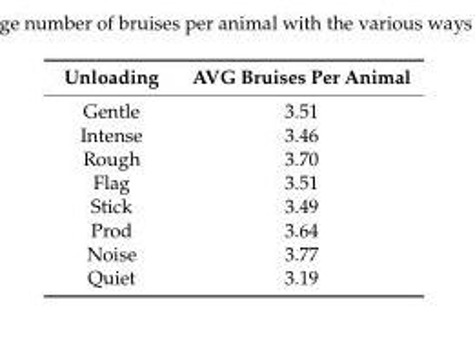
<table><thead><tr><td>Unloading</td><td>AVG Bruises Per Animal</td></tr></thead><tbody><tr><td>Gentle</td><td>3.51</td></tr><tr><td>Intense</td><td>3.46</td></tr><tr><td>Rough</td><td>3.70</td></tr><tr><td>Flag</td><td>3.51</td></tr><tr><td>Stick</td><td>3.49</td></tr><tr><td>Prod</td><td>3.64</td></tr><tr><td>Noise</td><td>3.77</td></tr><tr><td>Quiet</td><td>3.19</td></tr></tbody></table>